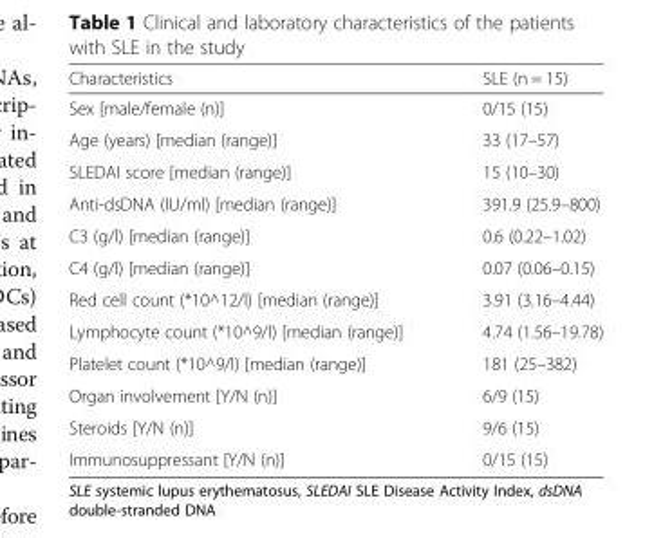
<table><thead><tr><td>Characteristics</td><td>SLE (n = 15)</td></tr></thead><tbody><tr><td>Sex [male/female (n)]</td><td>0/15 (15)</td></tr><tr><td>Age (years) [median (range)]</td><td>33 (17–57)</td></tr><tr><td>SLEDAI score [median (range)]</td><td>15 (10–30)</td></tr><tr><td>Anti-dsDNA (IU/ml) [median (range)]</td><td>391.9 (25.9–800)</td></tr><tr><td>C3 (g/l) [median (range)]</td><td>0.6 (0.22–1.02)</td></tr><tr><td>C4 (g/l) [median (range)]</td><td>0.07 (0.06–0.15)</td></tr><tr><td>Red cell count (*10^12/l) [median (range)]</td><td>3.91 (3.16–4.44)</td></tr><tr><td>Lymphocyte count (*10^9/l) [median (range)]</td><td>4.74 (1.56–19.78)</td></tr><tr><td>Platelet count (*10^9/l) [median (range)]</td><td>181 (25–382)</td></tr><tr><td>Organ involvement [Y/N (n)]</td><td>6/9 (15)</td></tr><tr><td>Steroids [Y/N (n)]</td><td>9/6 (15)</td></tr><tr><td>Immunosuppressant [Y/N (n)]</td><td>0/15 (15)</td></tr></tbody></table>